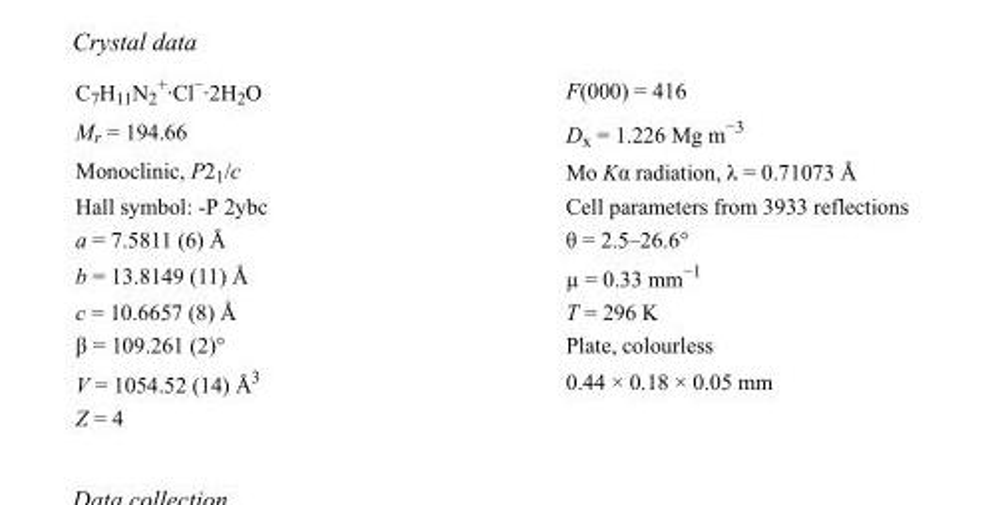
<table><tbody><tr><td>C<sub>7</sub>H<sub>11</sub>N<sub>2</sub> <sup>+</sup>·Cl<sup>−</sup>·2H<sub>2</sub>O</td><td>F(000) = 416</td></tr><tr><td>M<sub>r</sub> = 194.66</td><td>D<sub>x</sub> = 1.226 Mg m<sup>−3</sup></td></tr><tr><td>Monoclinic, P2<sub>1</sub>/c</td><td>Mo Kα radiation, λ = 0.71073 Å</td></tr><tr><td>Hall symbol: -P 2ybc</td><td>Cell parameters from 3933 reflections</td></tr><tr><td>a = 7.5811 (6) Å</td><td>θ = 2.5–26.6°</td></tr><tr><td>b = 13.8149 (11) Å</td><td>µ = 0.33 mm<sup>−1</sup></td></tr><tr><td>c = 10.6657 (8) Å</td><td>T = 296 K</td></tr><tr><td>β = 109.261 (2)°</td><td>Plate, colourless</td></tr><tr><td>V = 1054.52 (14) Å<sup>3</sup></td><td>0.44 × 0.18 × 0.05 mm</td></tr><tr><td>Z = 4</td><td></td></tr></tbody></table>